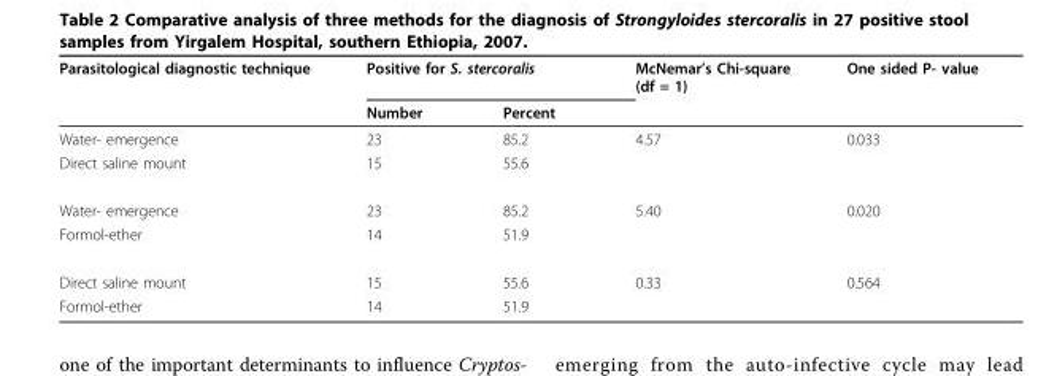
<table><thead><tr><td rowspan="2">Parasitological diagnostic technique</td><td colspan="2">Positive for S. stercoralis</td><td rowspan="2">McNemar’s Chi-square (df = 1)</td><td rowspan="2">One sided P- value</td></tr><tr><td>Number</td><td>Percent</td></tr></thead><tbody><tr><td>Water- emergence</td><td>23</td><td>85.2</td><td>4.57</td><td>0.033</td></tr><tr><td>Direct saline mount</td><td>15</td><td>55.6</td><td></td><td></td></tr><tr><td>Water- emergence</td><td>23</td><td>85.2</td><td>5.40</td><td>0.020</td></tr><tr><td>Formol-ether</td><td>14</td><td>51.9</td><td></td><td></td></tr><tr><td>Direct saline mount</td><td>15</td><td>55.6</td><td>0.33</td><td>0.564</td></tr><tr><td>Formol-ether</td><td>14</td><td>51.9</td><td></td><td></td></tr></tbody></table>